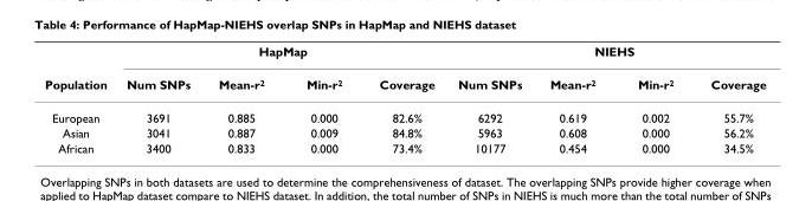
<table><thead><tr><td rowspan="2">Population</td><td colspan="4">HapMap</td><td colspan="4">NIEHS</td></tr><tr><td>Num SNPs</td><td>Mean-r2</td><td>Min-r2</td><td>Coverage</td><td>Num SNPs</td><td>Mean-r2</td><td>Min-r2</td><td>Coverage</td></tr></thead><tbody><tr><td>European</td><td>3691</td><td>0.885</td><td>0.000</td><td>82.6%</td><td>6292</td><td>0.619</td><td>0.002</td><td>55.7%</td></tr><tr><td>Asian</td><td>3041</td><td>0.887</td><td>0.009</td><td>84.8%</td><td>5963</td><td>0.608</td><td>0.000</td><td>56.2%</td></tr><tr><td>African</td><td>3400</td><td>0.833</td><td>0.000</td><td>73.4%</td><td>10177</td><td>0.454</td><td>0.000</td><td>34.5%</td></tr></tbody></table>